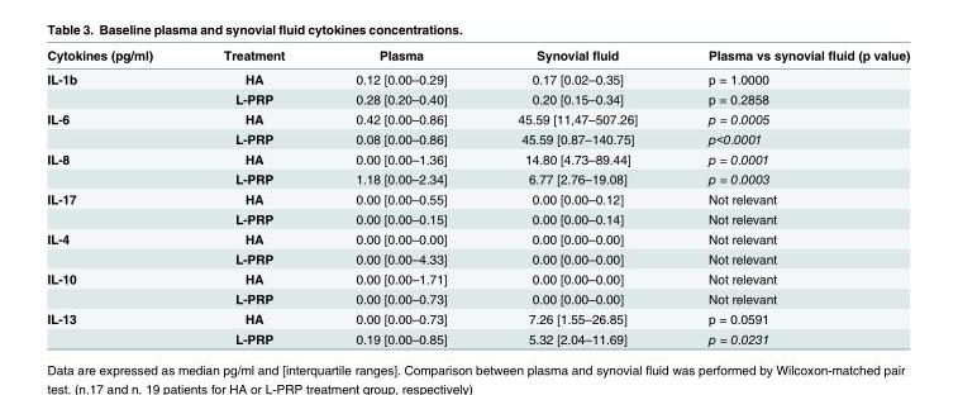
<table><thead><tr><td>Cytokines (pg/ml)</td><td>Treatment</td><td>Plasma</td><td>Synovial fluid</td><td>Plasma vs synovial fluid (p value)</td></tr></thead><tbody><tr><td rowspan="2">IL-1b</td><td>HA</td><td>0.12 [0.00–0.29]</td><td>0.17 [0.02–0.35]</td><td>p = 1.0000</td></tr><tr><td>L-PRP</td><td>0.28 [0.20–0.40]</td><td>0.20 [0.15–0.34]</td><td>p = 0.2858</td></tr><tr><td rowspan="2">IL-6</td><td>HA</td><td>0.42 [0.00–0.86]</td><td>45.59 [11,47–507.26]</td><td>p = 0.0005</td></tr><tr><td>L-PRP</td><td>0.08 [0.00–0.86]</td><td>45.59 [0.87–140.75]</td><td>p&lt;0.0001</td></tr><tr><td rowspan="2">IL-8</td><td>HA</td><td>0.00 [0.00–1.36]</td><td>14.80 [4.73–89.44]</td><td>p = 0.0001</td></tr><tr><td>L-PRP</td><td>1.18 [0.00–2.34]</td><td>6.77 [2.76–19.08]</td><td>p = 0.0003</td></tr><tr><td rowspan="2">IL-17</td><td>HA</td><td>0.00 [0.00–0.55]</td><td>0.00 [0.00–0.12]</td><td>Not relevant</td></tr><tr><td>L-PRP</td><td>0.00 [0.00–0.15]</td><td>0.00 [0.00–0.14]</td><td>Not relevant</td></tr><tr><td rowspan="2">IL-4</td><td>HA</td><td>0.00 [0.00–0.00]</td><td>0.00 [0.00–0.00]</td><td>Not relevant</td></tr><tr><td>L-PRP</td><td>0.00 [0.00–4.33]</td><td>0.00 [0.00–0.00]</td><td>Not relevant</td></tr><tr><td rowspan="2">IL-10</td><td>HA</td><td>0.00 [0.00–1.71]</td><td>0.00 [0.00–0.00]</td><td>Not relevant</td></tr><tr><td>L-PRP</td><td>0.00 [0.00–0.73]</td><td>0.00 [0.00–0.00]</td><td>Not relevant</td></tr><tr><td rowspan="2">IL-13</td><td>HA</td><td>0.00 [0.00–0.73]</td><td>7.26 [1.55–26.85]</td><td>p = 0.0591</td></tr><tr><td>L-PRP</td><td>0.19 [0.00–0.85]</td><td>5.32 [2.04–11.69]</td><td>p = 0.0231</td></tr></tbody></table>